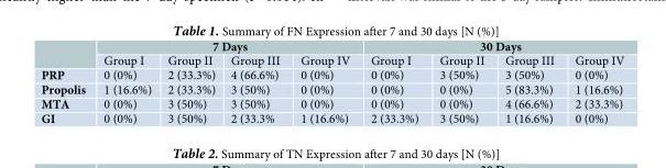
<table><thead><tr><td rowspan="2"></td><td colspan="4">7 Days</td><td colspan="4">30 Days</td></tr><tr><td>Group I</td><td>Group II</td><td>Group III</td><td>Group IV</td><td>Group I</td><td>Group II</td><td>Group III</td><td>Group IV</td></tr></thead><tbody><tr><td>PRP</td><td>0 (0%)</td><td>2 (33.3%)</td><td>4 (66.6%)</td><td>0 (0%)</td><td>0 (0%)</td><td>3 (50%)</td><td>3 (50%)</td><td>0 (0%)</td></tr><tr><td>Propolis</td><td>1 (16.6%)</td><td>2 (33.3%)</td><td>3 (50%)</td><td>0 (0%)</td><td>0 (0%)</td><td>0 (0%)</td><td>5 (83.3%)</td><td>1 (16.6%)</td></tr><tr><td>MTA</td><td>0 (0%)</td><td>3 (50%)</td><td>3 (50%)</td><td>0 (0%)</td><td>0 (0%)</td><td>0 (0%)</td><td>4 (66.6%)</td><td>2 (33.3%)</td></tr><tr><td>GI</td><td>0 (0%)</td><td>3 (50%)</td><td>2 (33.3%</td><td>1 (16.6%)</td><td>2 (33.3%)</td><td>3 (50%)</td><td>1 (16.6%)</td><td>0 (0%)</td></tr></tbody></table>